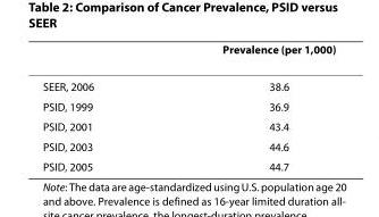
<table><thead><tr><td></td><td>Prevalence (per 1,000)</td></tr></thead><tbody><tr><td>SEER, 2006</td><td>38.6</td></tr><tr><td>PSID, 1999</td><td>36.9</td></tr><tr><td>PSID, 2001</td><td>43.4</td></tr><tr><td>PSID, 2003</td><td>44.6</td></tr><tr><td>PSID, 2005</td><td>44.7</td></tr></tbody></table>